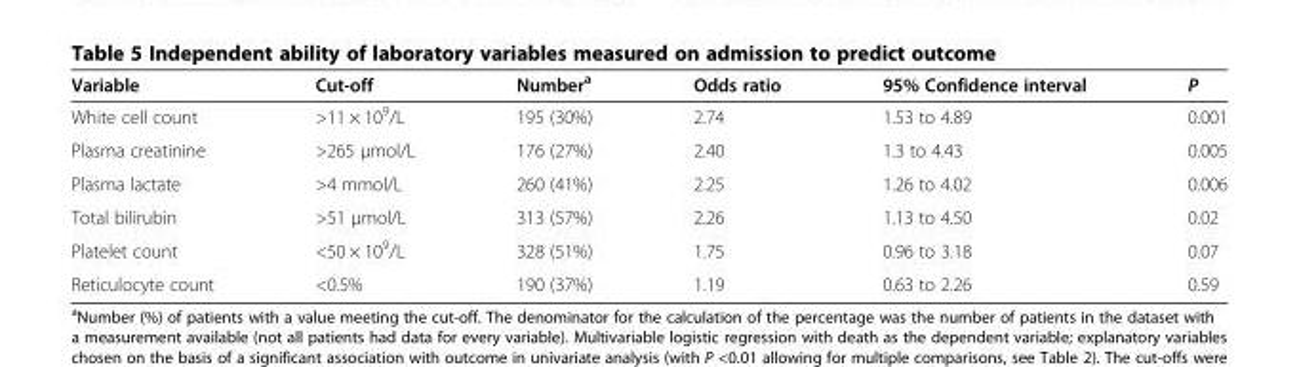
<table><thead><tr><td>Variable</td><td>Cut-off</td><td>Number<sup>a</sup></td><td>Odds ratio</td><td>95% Confidence interval</td><td>P</td></tr></thead><tbody><tr><td>White cell count</td><td>&gt;11 × 10<sup>9</sup>/L</td><td>195 (30%)</td><td>2.74</td><td>1.53 to 4.89</td><td>0.001</td></tr><tr><td>Plasma creatinine</td><td>&gt;265 μmol/L</td><td>176 (27%)</td><td>2.40</td><td>1.3 to 4.43</td><td>0.005</td></tr><tr><td>Plasma lactate</td><td>&gt;4 mmol/L</td><td>260 (41%)</td><td>2.25</td><td>1.26 to 4.02</td><td>0.006</td></tr><tr><td>Total bilirubin</td><td>&gt;51 μmol/L</td><td>313 (57%)</td><td>2.26</td><td>1.13 to 4.50</td><td>0.02</td></tr><tr><td>Platelet count</td><td>&lt;50 × 10<sup>9</sup>/L</td><td>328 (51%)</td><td>1.75</td><td>0.96 to 3.18</td><td>0.07</td></tr><tr><td>Reticulocyte count</td><td>&lt;0.5%</td><td>190 (37%)</td><td>1.19</td><td>0.63 to 2.26</td><td>0.59</td></tr></tbody></table>